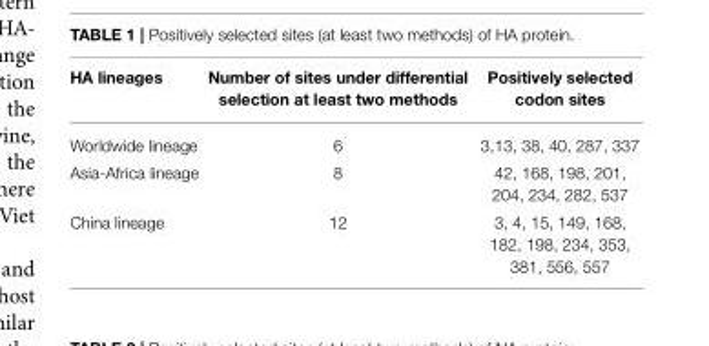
<table><thead><tr><td>HA lineages</td><td>Number of sites under differential selection at least two methods</td><td>Positively selected codon sites</td></tr></thead><tbody><tr><td>Worldwide lineage</td><td>6</td><td>3,13, 38, 40, 287, 337</td></tr><tr><td>Asia-Africa lineage</td><td>8</td><td>42, 168, 198, 201, 204, 234, 282, 537</td></tr><tr><td>China lineage</td><td>12</td><td>3, 4, 15, 149, 168, 182, 198, 234, 353, 381, 556, 557</td></tr></tbody></table>